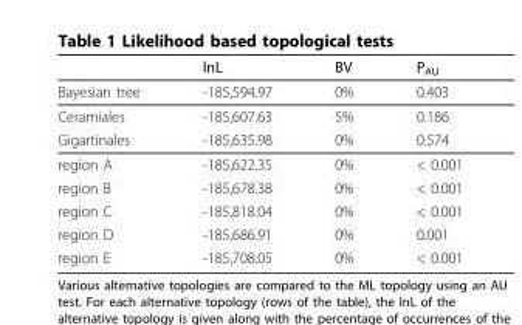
<table><thead><tr><td></td><td>lnL</td><td>BV</td><td>P<sub>AU</sub></td></tr></thead><tbody><tr><td>Bayesian tree</td><td>-185,594.97</td><td>0%</td><td>0.403</td></tr><tr><td>Ceramiales</td><td>-185,607.63</td><td>5%</td><td>0.186</td></tr><tr><td>Gigartinales</td><td>-185,635.98</td><td>0%</td><td>0.574</td></tr><tr><td>region A</td><td>-185,622.35</td><td>0%</td><td>&lt; 0.001</td></tr><tr><td>region B</td><td>-185,678.38</td><td>0%</td><td>&lt; 0.001</td></tr><tr><td>region C</td><td>-185,818.04</td><td>0%</td><td>&lt; 0.001</td></tr><tr><td>region D</td><td>-185,686.91</td><td>0%</td><td>0.001</td></tr><tr><td>region E</td><td>-185,708.05</td><td>0%</td><td>&lt; 0.001</td></tr></tbody></table>